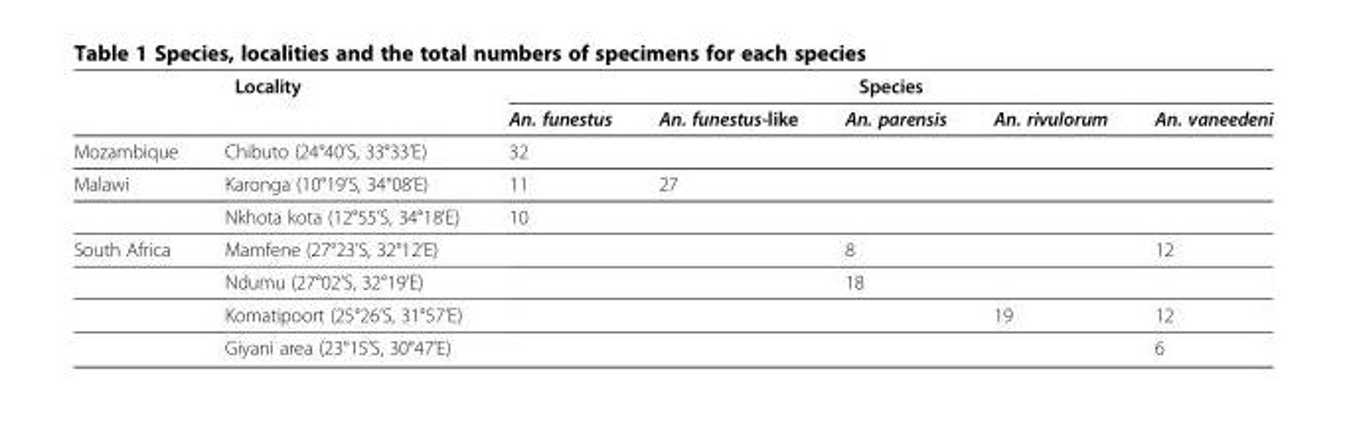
<table><thead><tr><td rowspan="2"></td><td rowspan="2">Locality</td><td colspan="5">Species</td></tr><tr><td>An. funestus</td><td>An. funestus-like</td><td>An. parensis</td><td>An. rivulorum</td><td>An. vaneedeni</td></tr></thead><tbody><tr><td>Mozambique</td><td>Chibuto (24°40’S, 33°33’E)</td><td>32</td><td></td><td></td><td></td><td></td></tr><tr><td rowspan="2">Malawi</td><td>Karonga (10°19’S, 34°08’E)</td><td>11</td><td>27</td><td></td><td></td><td></td></tr><tr><td>Nkhota kota (12°55’S, 34°18’E)</td><td>10</td><td></td><td></td><td></td><td></td></tr><tr><td rowspan="4">South Africa</td><td>Mamfene (27°23’S, 32°12’E)</td><td></td><td></td><td>8</td><td></td><td>12</td></tr><tr><td>Ndumu (27°02’S, 32°19’E)</td><td></td><td></td><td>18</td><td></td><td></td></tr><tr><td>Komatipoort (25°26’S, 31°57’E)</td><td></td><td></td><td></td><td>19</td><td>12</td></tr><tr><td>Giyani area (23°15’S, 30°47’E)</td><td></td><td></td><td></td><td></td><td>6</td></tr></tbody></table>